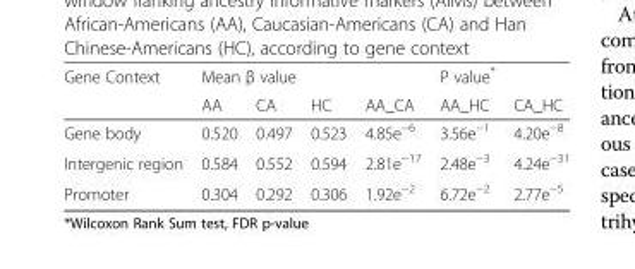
<table><thead><tr><td rowspan="2">Gene Context</td><td colspan="3">Mean β value</td><td rowspan="2">AA_CA</td><td rowspan="2">P value* AA_HC</td><td rowspan="2">CA_HC</td></tr><tr><td>AA</td><td>CA</td><td>HC</td></tr></thead><tbody><tr><td>Gene body</td><td>0.520</td><td>0.497</td><td>0.523</td><td>4.85e<sup>−6</sup></td><td>3.56e<sup>−1</sup></td><td>4.20e<sup>−8</sup></td></tr><tr><td>Intergenic region</td><td>0.584</td><td>0.552</td><td>0.594</td><td>2.81e<sup>−17</sup></td><td>2.48e<sup>−3</sup></td><td>4.24e<sup>−31</sup></td></tr><tr><td>Promoter</td><td>0.304</td><td>0.292</td><td>0.306</td><td>1.92e<sup>−2</sup></td><td>6.72e<sup>−2</sup></td><td>2.77e<sup>−5</sup></td></tr></tbody></table>